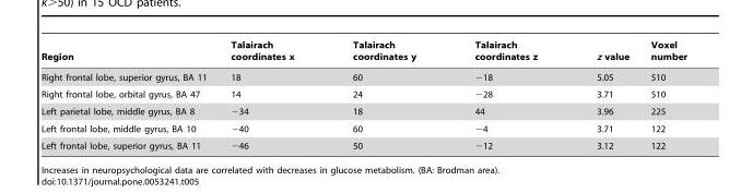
<table><thead><tr><td>Region</td><td>Talairach coordinates x</td><td>Talairach coordinates y</td><td>Talairach coordinates z</td><td>z value</td><td>Voxel number</td></tr></thead><tbody><tr><td>Right frontal lobe, superior gyrus, BA 11</td><td>18</td><td>60</td><td>−18</td><td>5.05</td><td>510</td></tr><tr><td>Right frontal lobe, orbital gyrus, BA 47</td><td>14</td><td>24</td><td>−28</td><td>3.71</td><td>510</td></tr><tr><td>Left parietal lobe, middle gyrus, BA 8</td><td>−34</td><td>18</td><td>44</td><td>3.96</td><td>225</td></tr><tr><td>Left frontal lobe, middle gyrus, BA 10</td><td>−40</td><td>60</td><td>−4</td><td>3.71</td><td>122</td></tr><tr><td>Left frontal lobe, superior gyrus, BA 11</td><td>−46</td><td>50</td><td>−12</td><td>3.12</td><td>122</td></tr></tbody></table>